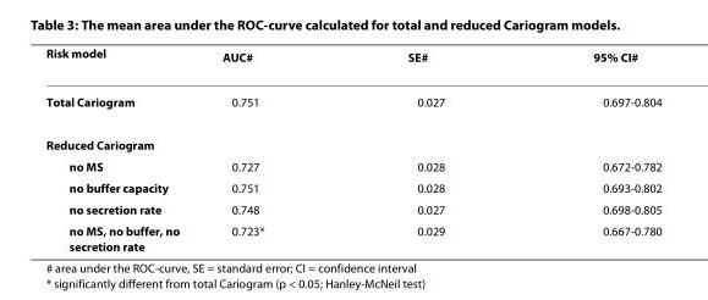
<table><thead><tr><td>Risk model</td><td>AUC<sup>#</sup></td><td>SE<sup>#</sup></td><td>95% CI<sup>#</sup></td></tr></thead><tbody><tr><td>Total Cariogram</td><td>0.751</td><td>0.027</td><td>0.697-0.804</td></tr><tr><td colspan="4">Reduced Cariogram</td></tr><tr><td>no MS</td><td>0.727</td><td>0.028</td><td>0.672-0.782</td></tr><tr><td>no buffer capacity</td><td>0.751</td><td>0.028</td><td>0.693-0.802</td></tr><tr><td>no secretion rate</td><td>0.748</td><td>0.027</td><td>0.698-0.805</td></tr><tr><td>no MS, no buffer, no secretion rate</td><td>0.723*</td><td>0.029</td><td>0.667-0.780</td></tr></tbody></table>